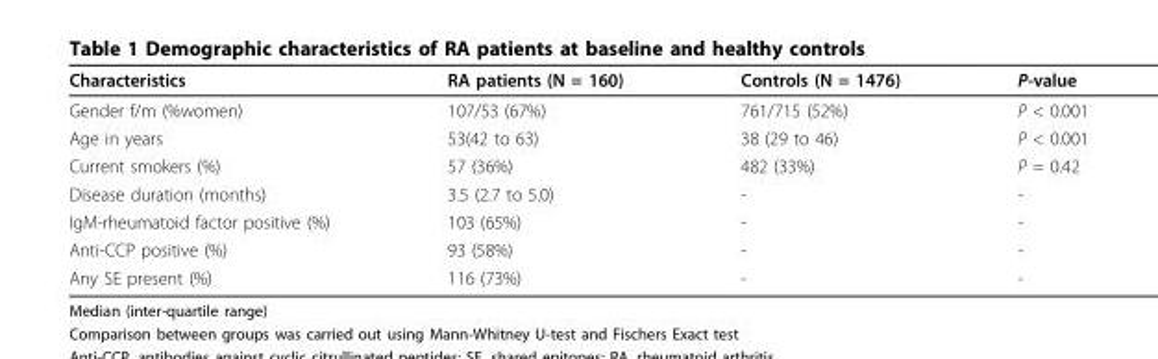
<table><thead><tr><td>Characteristics</td><td>RA patients (N = 160)</td><td>Controls (N = 1476)</td><td>P-value</td></tr></thead><tbody><tr><td>Gender f/m (%women)</td><td>107/53 (67%)</td><td>761/715 (52%)</td><td>P &lt; 0.001</td></tr><tr><td>Age in years</td><td>53(42 to 63)</td><td>38 (29 to 46)</td><td>P &lt; 0.001</td></tr><tr><td>Current smokers (%)</td><td>57 (36%)</td><td>482 (33%)</td><td>P = 0.42</td></tr><tr><td>Disease duration (months)</td><td>3.5 (2.7 to 5.0)</td><td>-</td><td>-</td></tr><tr><td>IgM-rheumatoid factor positive (%)</td><td>103 (65%)</td><td>-</td><td>-</td></tr><tr><td>Anti-CCP positive (%)</td><td>93 (58%)</td><td>-</td><td>-</td></tr><tr><td>Any SE present (%)</td><td>116 (73%)</td><td>-</td><td>-</td></tr></tbody></table>